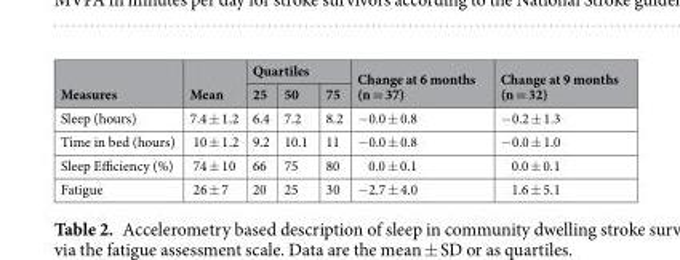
<table><thead><tr><td rowspan="2">Measures</td><td rowspan="2">Mean</td><td colspan="3">Quartiles</td><td rowspan="2">Change at 6 months (n = 37)</td><td rowspan="2">Change at 9 months (n = 32)</td></tr><tr><td>25</td><td>50</td><td>75</td></tr></thead><tbody><tr><td>Sleep (hours)</td><td>7.4 ± 1.2</td><td>6.4</td><td>7.2</td><td>8.2</td><td>−0.0 ± 0.8</td><td>−0.2 ± 1.3</td></tr><tr><td>Time in bed (hours)</td><td>10 ± 1.2</td><td>9.2</td><td>10.1</td><td>11</td><td>−0.0 ± 0.8</td><td>−0.0 ± 1.0</td></tr><tr><td>Sleep Efficiency (%)</td><td>74 ± 10</td><td>66</td><td>75</td><td>80</td><td>0.0 ± 0.1</td><td>0.0 ± 0.1</td></tr><tr><td>Fatigue</td><td>26 ± 7</td><td>20</td><td>25</td><td>30</td><td>−2.7 ± 4.0</td><td>1.6 ± 5.1</td></tr></tbody></table>